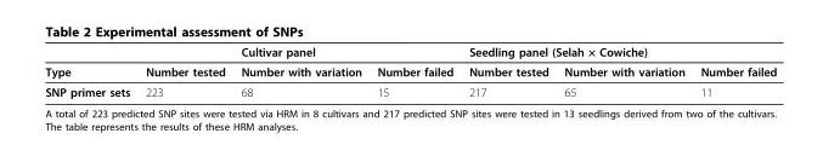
<table><thead><tr><td rowspan="2">Type</td><td rowspan="2">Number tested</td><td colspan="2">Cultivar panel</td><td colspan="3">Seedling panel (Selah × Cowiche)</td></tr><tr><td>Number with variation</td><td>Number failed</td><td>Number tested</td><td>Number with variation</td><td>Number failed</td></tr></thead><tbody><tr><td>SNP primer sets</td><td>223</td><td>68</td><td>15</td><td>217</td><td>65</td><td>11</td></tr></tbody></table>